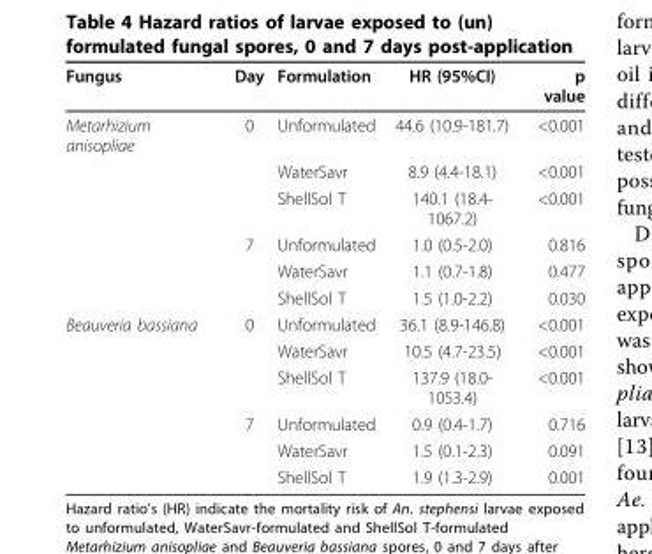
<table><thead><tr><td>Fungus</td><td>Day</td><td>Formulation</td><td>HR (95%CI)</td><td>p value</td></tr></thead><tbody><tr><td rowspan="6">Metarhizium anisopliae</td><td>0</td><td>Unformulated</td><td>44.6 (10.9-181.7)</td><td>&lt;0.001</td></tr><tr><td></td><td>WaterSavr</td><td>8.9 (4.4-18.1)</td><td>&lt;0.001</td></tr><tr><td></td><td>ShellSol T</td><td>140.1 (18.4- 1067.2)</td><td>&lt;0.001</td></tr><tr><td>7</td><td>Unformulated</td><td>1.0 (0.5-2.0)</td><td>0.816</td></tr><tr><td></td><td>WaterSavr</td><td>1.1 (0.7-1.8)</td><td>0.477</td></tr><tr><td></td><td>ShellSol T</td><td>1.5 (1.0-2.2)</td><td>0.030</td></tr><tr><td rowspan="6">Beauveria bassiana</td><td>0</td><td>Unformulated</td><td>36.1 (8.9-146.8)</td><td>&lt;0.001</td></tr><tr><td></td><td>WaterSavr</td><td>10.5 (4.7-23.5)</td><td>&lt;0.001</td></tr><tr><td></td><td>ShellSol T</td><td>137.9 (18.0- 1053.4)</td><td>&lt;0.001</td></tr><tr><td>7</td><td>Unformulated</td><td>0.9 (0.4-1.7)</td><td>0.716</td></tr><tr><td></td><td>WaterSavr</td><td>1.5 (0.1-2.3)</td><td>0.091</td></tr><tr><td></td><td>ShellSol T</td><td>1.9 (1.3-2.9)</td><td>0.001</td></tr></tbody></table>